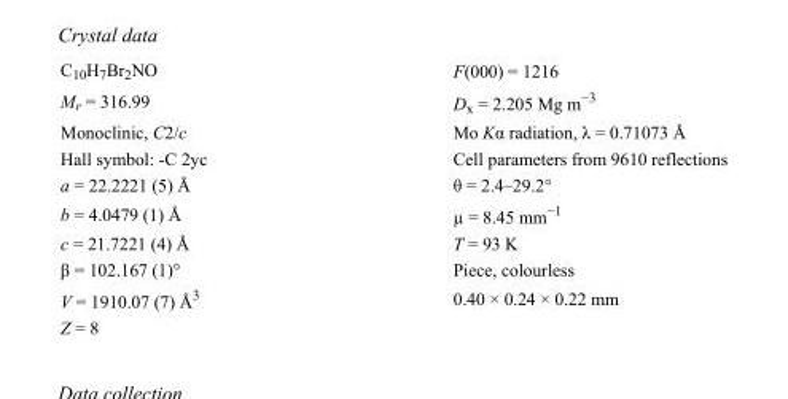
<table><tbody><tr><td>C<sub>10</sub>H<sub>7</sub>Br<sub>2</sub>NO</td><td>F(000) = 1216</td></tr><tr><td>M<sub>r</sub> = 316.99</td><td>D<sub>x</sub> = 2.205 Mg m<sup>−3</sup></td></tr><tr><td>Monoclinic, C2/c</td><td>Mo Kα radiation, λ = 0.71073 Å</td></tr><tr><td>Hall symbol: -C 2yc</td><td>Cell parameters from 9610 reflections</td></tr><tr><td>a = 22.2221 (5) Å</td><td>θ = 2.4–29.2°</td></tr><tr><td>b = 4.0479 (1) Å</td><td>µ = 8.45 mm<sup>−1</sup></td></tr><tr><td>c = 21.7221 (4) Å</td><td>T = 93 K</td></tr><tr><td>β = 102.167 (1)°</td><td>Piece, colourless</td></tr><tr><td>V = 1910.07 (7) Å<sup>3</sup></td><td>0.40 × 0.24 × 0.22 mm</td></tr><tr><td>Z = 8</td><td></td></tr></tbody></table>